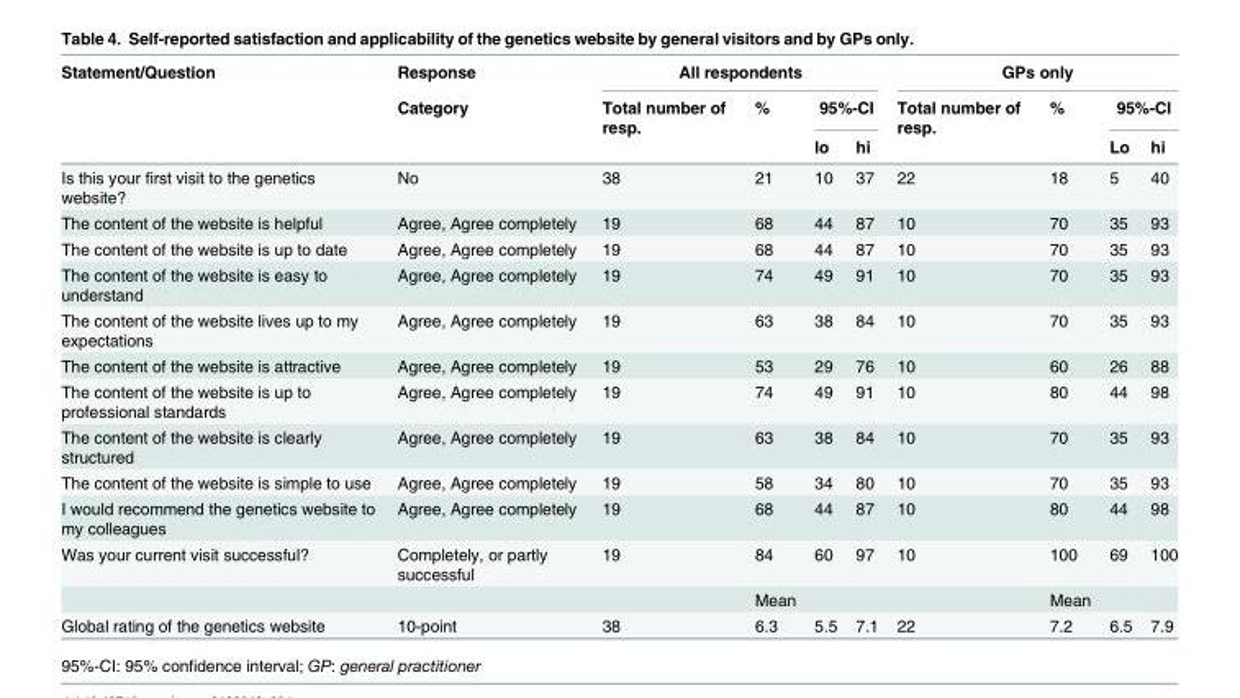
<table><thead><tr><td rowspan="3">Statement/Question</td><td rowspan="3">Response Category</td><td colspan="4">All respondents</td><td colspan="4">GPs only</td></tr><tr><td rowspan="2">Total number of resp.</td><td rowspan="2">%</td><td colspan="2">95%-CI</td><td rowspan="2">Total number of resp.</td><td rowspan="2">%</td><td colspan="2">95%-CI</td></tr><tr><td>lo</td><td>hi</td><td>Lo</td><td>hi</td></tr></thead><tbody><tr><td>Is this your first visit to the genetics website?</td><td>No</td><td>38</td><td>21</td><td>10</td><td>37</td><td>22</td><td>18</td><td>5</td><td>40</td></tr><tr><td>The content of the website is helpful</td><td>Agree, Agree completely</td><td>19</td><td>68</td><td>44</td><td>87</td><td>10</td><td>70</td><td>35</td><td>93</td></tr><tr><td>The content of the website is up to date</td><td>Agree, Agree completely</td><td>19</td><td>68</td><td>44</td><td>87</td><td>10</td><td>70</td><td>35</td><td>93</td></tr><tr><td>The content of the website is easy to understand</td><td>Agree, Agree completely</td><td>19</td><td>74</td><td>49</td><td>91</td><td>10</td><td>70</td><td>35</td><td>93</td></tr><tr><td>The content of the website lives up to my expectations</td><td>Agree, Agree completely</td><td>19</td><td>63</td><td>38</td><td>84</td><td>10</td><td>70</td><td>35</td><td>93</td></tr><tr><td>The content of the website is attractive</td><td>Agree, Agree completely</td><td>19</td><td>53</td><td>29</td><td>76</td><td>10</td><td>60</td><td>26</td><td>88</td></tr><tr><td>The content of the website is up to professional standards</td><td>Agree, Agree completely</td><td>19</td><td>74</td><td>49</td><td>91</td><td>10</td><td>80</td><td>44</td><td>98</td></tr><tr><td>The content of the website is clearly structured</td><td>Agree, Agree completely</td><td>19</td><td>63</td><td>38</td><td>84</td><td>10</td><td>70</td><td>35</td><td>93</td></tr><tr><td>The content of the website is simple to use</td><td>Agree, Agree completely</td><td>19</td><td>58</td><td>34</td><td>80</td><td>10</td><td>70</td><td>35</td><td>93</td></tr><tr><td>I would recommend the genetics website to my colleagues</td><td>Agree, Agree completely</td><td>19</td><td>68</td><td>44</td><td>87</td><td>10</td><td>80</td><td>44</td><td>98</td></tr><tr><td rowspan="2">Was your current visit successful?</td><td>Completely, or partly successful</td><td>19</td><td>84</td><td>60</td><td>97</td><td>10</td><td>100</td><td>69</td><td>100</td></tr><tr><td></td><td></td><td>Mean</td><td></td><td></td><td></td><td>Mean</td><td></td><td></td></tr><tr><td>Global rating of the genetics website</td><td>10-point</td><td>38</td><td>6.3</td><td>5.5</td><td>7.1</td><td>22</td><td>7.2</td><td>6.5</td><td>7.9</td></tr></tbody></table>